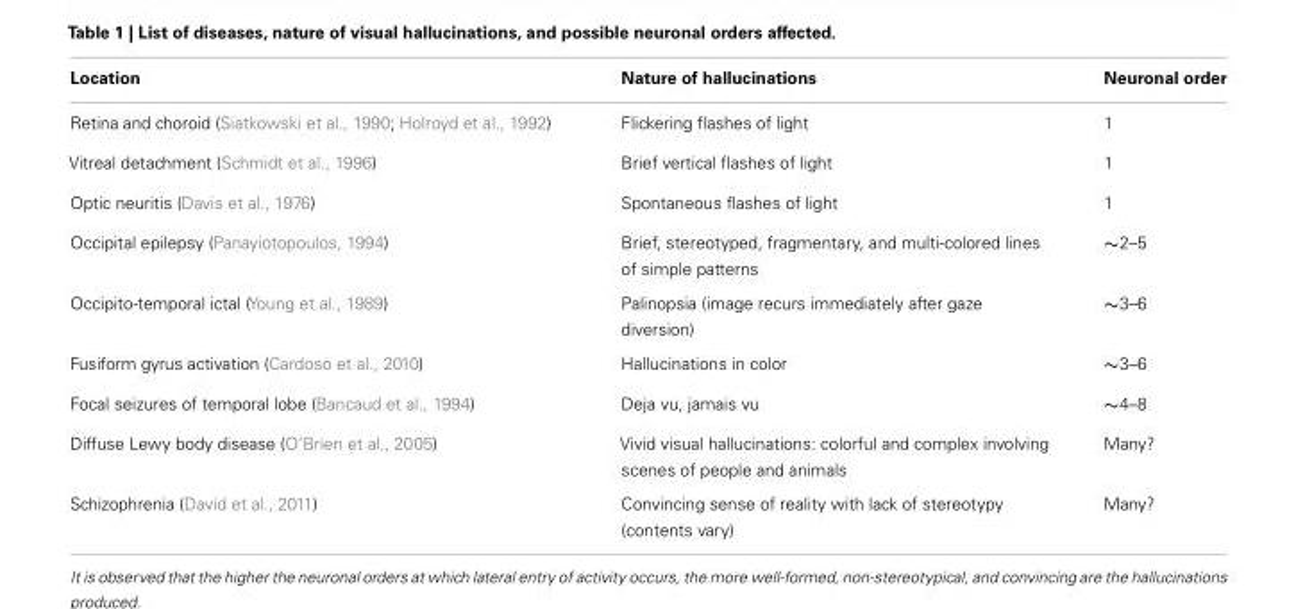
<table><thead><tr><td>Location</td><td>Nature of hallucinations</td><td>Neuronal order</td></tr></thead><tbody><tr><td>Retina and choroid (Siatkowski et al., 1990; Holroyd et al., 1992)</td><td>Flickering flashes of light</td><td>1</td></tr><tr><td>Vitreal detachment (Schmidt et al., 1996)</td><td>Brief vertical flashes of light</td><td>1</td></tr><tr><td>Optic neuritis (Davis et al., 1976)</td><td>Spontaneous flashes of light</td><td>1</td></tr><tr><td>Occipital epilepsy (Panayiotopoulos, 1994)</td><td>Brief, stereotyped, fragmentary, and multi-colored lines of simple patterns</td><td>∼2–5</td></tr><tr><td>Occipito-temporal ictal (Young et al., 1989)</td><td>Palinopsia (image recurs immediately after gaze diversion)</td><td>∼3–6</td></tr><tr><td>Fusiform gyrus activation (Cardoso et al., 2010)</td><td>Hallucinations in color</td><td>∼3–6</td></tr><tr><td>Focal seizures of temporal lobe (Bancaud et al., 1994)</td><td>Deja vu, jamais vu</td><td>∼4–8</td></tr><tr><td>Diffuse Lewy body disease (O’Brien et al., 2005)</td><td>Vivid visual hallucinations: colorful and complex involving scenes of people and animals</td><td>Many?</td></tr><tr><td>Schizophrenia (David et al., 2011)</td><td>Convincing sense of reality with lack of stereotypy (contents vary)</td><td>Many?</td></tr></tbody></table>